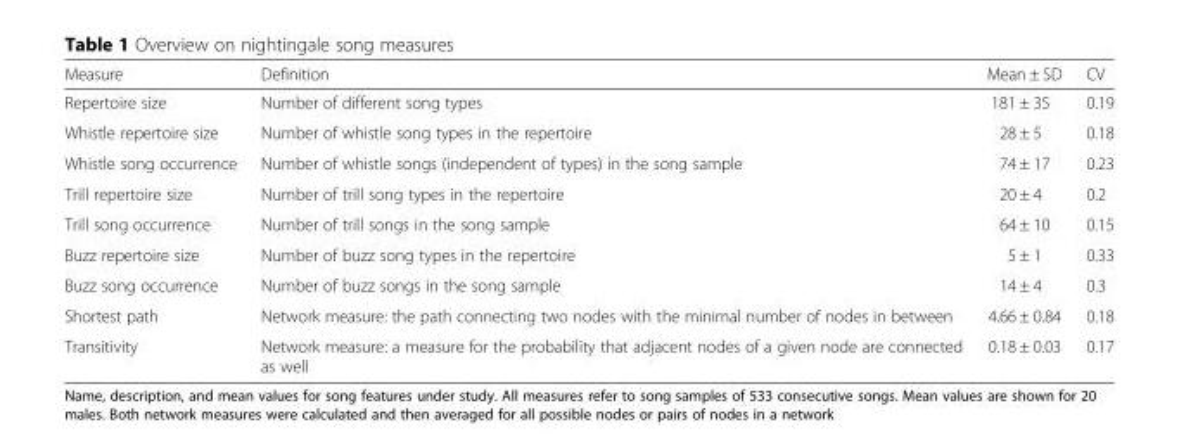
<table><thead><tr><td>Measure</td><td>Definition</td><td>Mean ± SD</td><td>CV</td></tr></thead><tbody><tr><td>Repertoire size</td><td>Number of different song types</td><td>181 ± 35</td><td>0.19</td></tr><tr><td>Whistle repertoire size</td><td>Number of whistle song types in the repertoire</td><td>28 ± 5</td><td>0.18</td></tr><tr><td>Whistle song occurrence</td><td>Number of whistle songs (independent of types) in the song sample</td><td>74 ± 17</td><td>0.23</td></tr><tr><td>Trill repertoire size</td><td>Number of trill song types in the repertoire</td><td>20 ± 4</td><td>0.2</td></tr><tr><td>Trill song occurrence</td><td>Number of trill songs in the song sample</td><td>64 ± 10</td><td>0.15</td></tr><tr><td>Buzz repertoire size</td><td>Number of buzz song types in the repertoire</td><td>5 ± 1</td><td>0.33</td></tr><tr><td>Buzz song occurrence</td><td>Number of buzz songs in the song sample</td><td>14 ± 4</td><td>0.3</td></tr><tr><td>Shortest path</td><td>Network measure: the path connecting two nodes with the minimal number of nodes in between</td><td>4.66 ± 0.84</td><td>0.18</td></tr><tr><td>Transitivity</td><td>Network measure: a measure for the probability that adjacent nodes of a given node are connected as well</td><td>0.18 ± 0.03</td><td>0.17</td></tr></tbody></table>